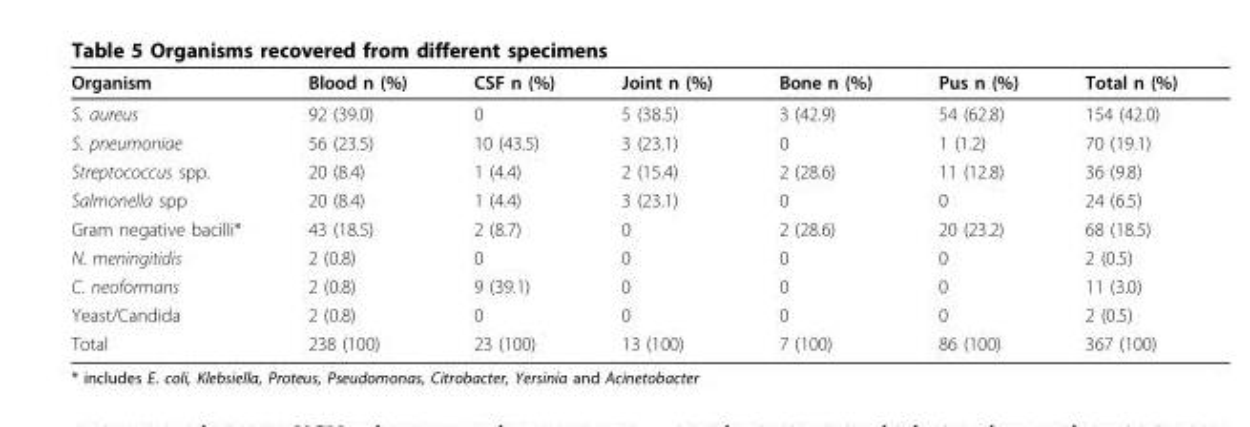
<table><thead><tr><td>Organism</td><td>Blood n (%)</td><td>CSF n (%)</td><td>Joint n (%)</td><td>Bone n (%)</td><td>Pus n (%)</td><td>Total n (%)</td></tr></thead><tbody><tr><td>S. aureus</td><td>92 (39.0)</td><td>0</td><td>5 (38.5)</td><td>3 (42.9)</td><td>54 (62.8)</td><td>154 (42.0)</td></tr><tr><td>S. pneumoniae</td><td>56 (23.5)</td><td>10 (43.5)</td><td>3 (23.1)</td><td>0</td><td>1 (1.2)</td><td>70 (19.1)</td></tr><tr><td>Streptococcus spp.</td><td>20 (8.4)</td><td>1 (4.4)</td><td>2 (15.4)</td><td>2 (28.6)</td><td>11 (12.8)</td><td>36 (9.8)</td></tr><tr><td>Salmonella spp</td><td>20 (8.4)</td><td>1 (4.4)</td><td>3 (23.1)</td><td>0</td><td>0</td><td>24 (6.5)</td></tr><tr><td>Gram negative bacilli*</td><td>43 (18.5)</td><td>2 (8.7)</td><td>0</td><td>2 (28.6)</td><td>20 (23.2)</td><td>68 (18.5)</td></tr><tr><td>N. meningitidis</td><td>2 (0.8)</td><td>0</td><td>0</td><td>0</td><td>0</td><td>2 (0.5)</td></tr><tr><td>C. neoformans</td><td>2 (0.8)</td><td>9 (39.1)</td><td>0</td><td>0</td><td>0</td><td>11 (3.0)</td></tr><tr><td>Yeast/Candida</td><td>2 (0.8)</td><td>0</td><td>0</td><td>0</td><td>0</td><td>2 (0.5)</td></tr><tr><td>Total</td><td>238 (100)</td><td>23 (100)</td><td>13 (100)</td><td>7 (100)</td><td>86 (100)</td><td>367 (100)</td></tr></tbody></table>